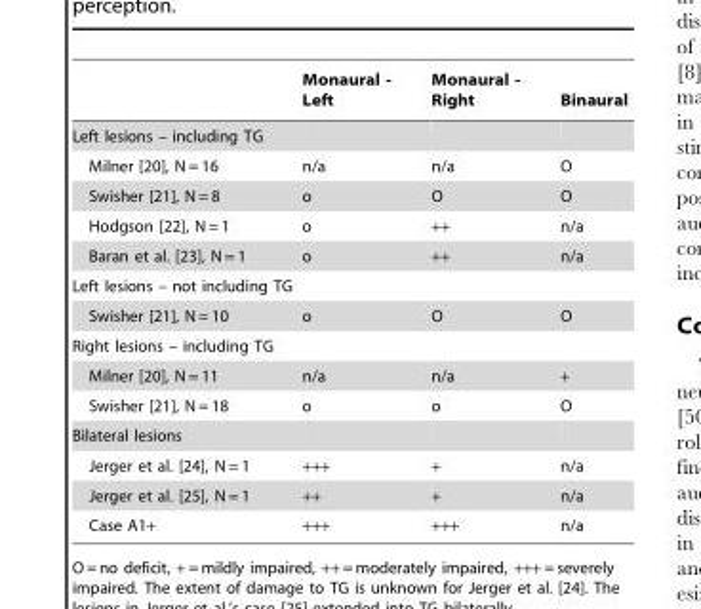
<table><thead><tr><td></td><td>Monaural - Left</td><td>Monaural - Right</td><td>Binaural</td></tr></thead><tbody><tr><td colspan="4">Left lesions – including TG</td></tr><tr><td>Milner [20], N = 16</td><td>n/a</td><td>n/a</td><td>O</td></tr><tr><td>Swisher [21], N = 8</td><td>o</td><td>O</td><td>O</td></tr><tr><td>Hodgson [22], N = 1</td><td>o</td><td>++</td><td>n/a</td></tr><tr><td>Baran et al. [23], N = 1</td><td>o</td><td>++</td><td>n/a</td></tr><tr><td colspan="4">Left lesions – not including TG</td></tr><tr><td>Swisher [21], N = 10</td><td>o</td><td>O</td><td>O</td></tr><tr><td colspan="4">Right lesions – including TG</td></tr><tr><td>Milner [20], N = 11</td><td>n/a</td><td>n/a</td><td>+</td></tr><tr><td>Swisher [21], N = 18</td><td>o</td><td>o</td><td>O</td></tr><tr><td colspan="4">Bilateral lesions</td></tr><tr><td>Jerger et al. [24], N = 1</td><td>+++</td><td>+</td><td>n/a</td></tr><tr><td>Jerger et al. [25], N = 1</td><td>++</td><td>+</td><td>n/a</td></tr><tr><td>Case A1+</td><td>+++</td><td>+++</td><td>n/a</td></tr></tbody></table>